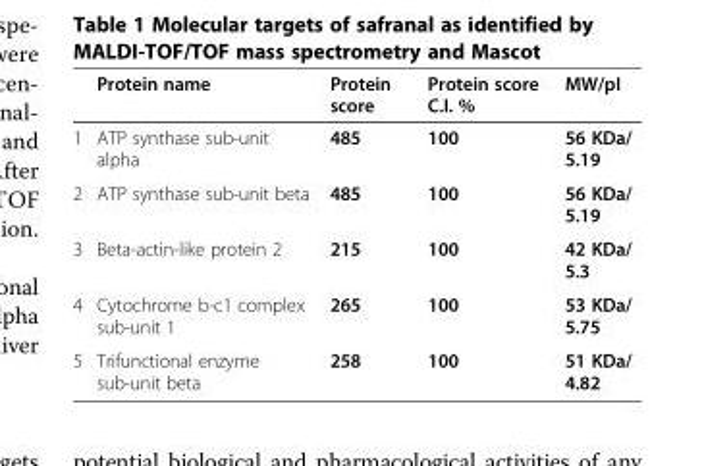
<table><thead><tr><td></td><td>Protein name</td><td>Protein score</td><td>Protein score C.I. %</td><td>MW/pI</td></tr></thead><tbody><tr><td>1</td><td>ATP synthase sub-unit alpha</td><td>485</td><td>100</td><td>56 KDa/ 5.19</td></tr><tr><td>2</td><td>ATP synthase sub-unit beta</td><td>485</td><td>100</td><td>56 KDa/ 5.19</td></tr><tr><td>3</td><td>Beta-actin-like protein 2</td><td>215</td><td>100</td><td>42 KDa/ 5.3</td></tr><tr><td>4</td><td>Cytochrome b-c1 complex sub-unit 1</td><td>265</td><td>100</td><td>53 KDa/ 5.75</td></tr><tr><td>5</td><td>Trifunctional enzyme sub-unit beta</td><td>258</td><td>100</td><td>51 KDa/ 4.82</td></tr></tbody></table>